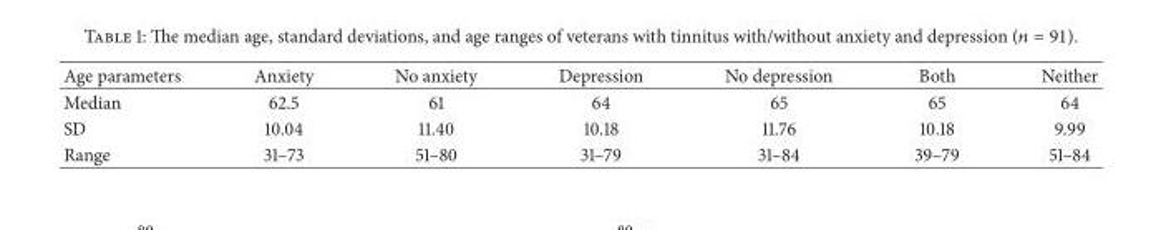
<table><thead><tr><td>Age parameters</td><td>Anxiety</td><td>No anxiety</td><td>Depression</td><td>No depression</td><td>Both</td><td>Neither</td></tr></thead><tbody><tr><td>Median</td><td>62.5</td><td>61</td><td>64</td><td>65</td><td>65</td><td>64</td></tr><tr><td>SD</td><td>10.04</td><td>11.40</td><td>10.18</td><td>11.76</td><td>10.18</td><td>9.99</td></tr><tr><td>Range</td><td>31–73</td><td>51–80</td><td>31–79</td><td>31–84</td><td>39–79</td><td>51–84</td></tr></tbody></table>